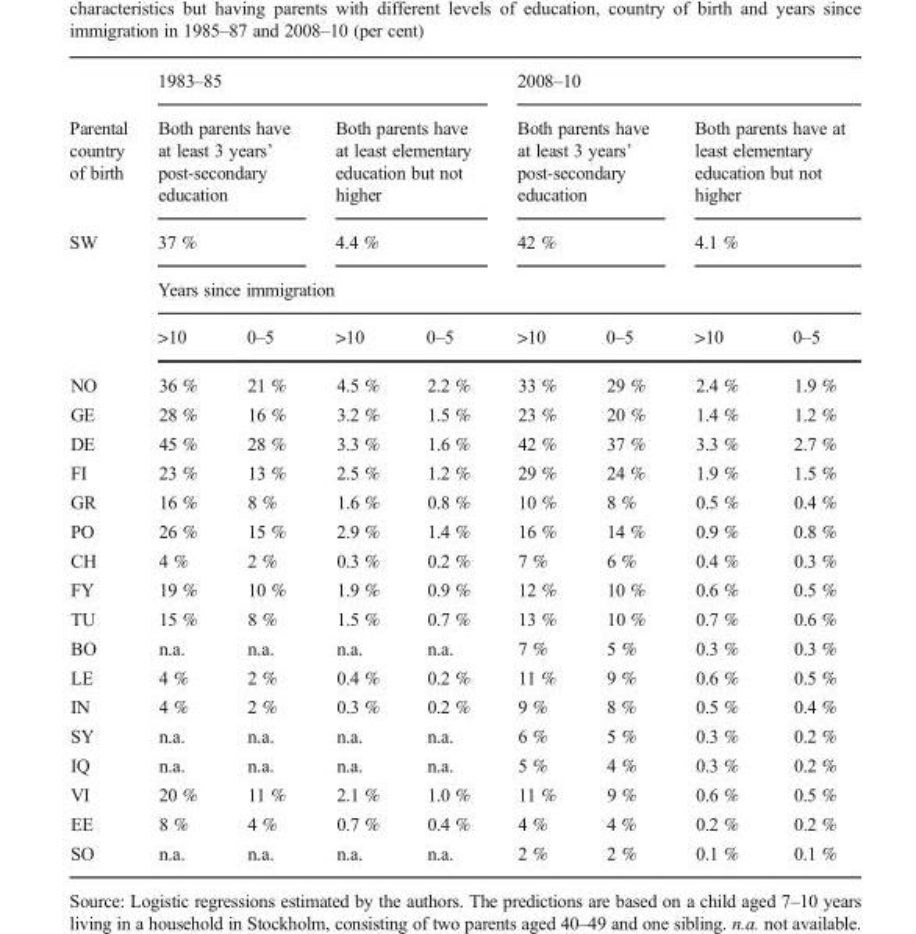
<table><thead><tr><td rowspan="5">Parental country of birth SW</td><td colspan="4">1983–85</td><td colspan="4">2008–10</td></tr><tr><td rowspan="2" colspan="2">Both parents have at least 3 years’ post-secondary education 37 %</td><td rowspan="2" colspan="2">Both parents have at least elementary education but not higher 4.4 %</td><td rowspan="2" colspan="2">Both parents have at least 3 years’ post-secondary education 42 %</td><td rowspan="2" colspan="2">Both parents have at least elementary education but not higher 4.1 %</td></tr><tr></tr><tr><td colspan="8">Years since immigration</td></tr><tr><td>&gt;10</td><td>0–5</td><td>&gt;10</td><td>0–5</td><td>&gt;10</td><td>0–5</td><td>&gt;10</td><td>0–5</td></tr></thead><tbody><tr><td>NO</td><td>36 %</td><td>21 %</td><td>4.5 %</td><td>2.2 %</td><td>33 %</td><td>29 %</td><td>2.4 %</td><td>1.9 %</td></tr><tr><td>GE</td><td>28 %</td><td>16 %</td><td>3.2 %</td><td>1.5 %</td><td>23 %</td><td>20 %</td><td>1.4 %</td><td>1.2 %</td></tr><tr><td>DE</td><td>45 %</td><td>28 %</td><td>3.3 %</td><td>1.6 %</td><td>42 %</td><td>37 %</td><td>3.3 %</td><td>2.7 %</td></tr><tr><td>FI</td><td>23 %</td><td>13 %</td><td>2.5 %</td><td>1.2 %</td><td>29 %</td><td>24 %</td><td>1.9 %</td><td>1.5 %</td></tr><tr><td>GR</td><td>16 %</td><td>8 %</td><td>1.6 %</td><td>0.8 %</td><td>10 %</td><td>8 %</td><td>0.5 %</td><td>0.4 %</td></tr><tr><td>PO</td><td>26 %</td><td>15 %</td><td>2.9 %</td><td>1.4 %</td><td>16 %</td><td>14 %</td><td>0.9 %</td><td>0.8 %</td></tr><tr><td>CH</td><td>4 %</td><td>2 %</td><td>0.3 %</td><td>0.2 %</td><td>7 %</td><td>6 %</td><td>0.4 %</td><td>0.3 %</td></tr><tr><td>FY</td><td>19 %</td><td>10 %</td><td>1.9 %</td><td>0.9 %</td><td>12 %</td><td>10 %</td><td>0.6 %</td><td>0.5 %</td></tr><tr><td>TU</td><td>15 %</td><td>8 %</td><td>1.5 %</td><td>0.7 %</td><td>13 %</td><td>10 %</td><td>0.7 %</td><td>0.6 %</td></tr><tr><td>BO</td><td>n.a.</td><td>n.a.</td><td>n.a.</td><td>n.a.</td><td>7 %</td><td>5 %</td><td>0.3 %</td><td>0.3 %</td></tr><tr><td>LE</td><td>4 %</td><td>2 %</td><td>0.4 %</td><td>0.2 %</td><td>11 %</td><td>9 %</td><td>0.6 %</td><td>0.5 %</td></tr><tr><td>IN</td><td>4 %</td><td>2 %</td><td>0.3 %</td><td>0.2 %</td><td>9 %</td><td>8 %</td><td>0.5 %</td><td>0.4 %</td></tr><tr><td>SY</td><td>n.a.</td><td>n.a.</td><td>n.a.</td><td>n.a.</td><td>6 %</td><td>5 %</td><td>0.3 %</td><td>0.2 %</td></tr><tr><td>IQ</td><td>n.a.</td><td>n.a.</td><td>n.a.</td><td>n.a.</td><td>5 %</td><td>4 %</td><td>0.3 %</td><td>0.2 %</td></tr><tr><td>VI</td><td>20 %</td><td>11 %</td><td>2.1 %</td><td>1.0 %</td><td>11 %</td><td>9 %</td><td>0.6 %</td><td>0.5 %</td></tr><tr><td>EE</td><td>8 %</td><td>4 %</td><td>0.7 %</td><td>0.4 %</td><td>4 %</td><td>4 %</td><td>0.2 %</td><td>0.2 %</td></tr><tr><td>SO</td><td>n.a.</td><td>n.a.</td><td>n.a.</td><td>n.a.</td><td>2 %</td><td>2 %</td><td>0.1 %</td><td>0.1 %</td></tr></tbody></table>